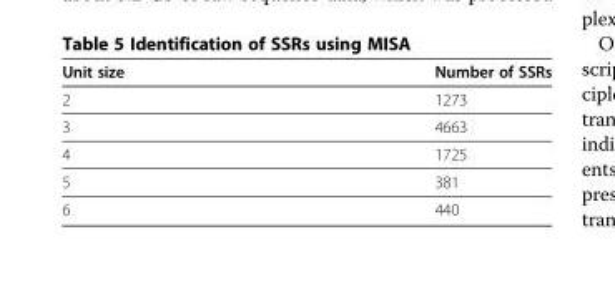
<table><thead><tr><td>Unit size</td><td>Number of SSRs</td></tr></thead><tbody><tr><td>2</td><td>1273</td></tr><tr><td>3</td><td>4663</td></tr><tr><td>4</td><td>1725</td></tr><tr><td>5</td><td>381</td></tr><tr><td>6</td><td>440</td></tr></tbody></table>